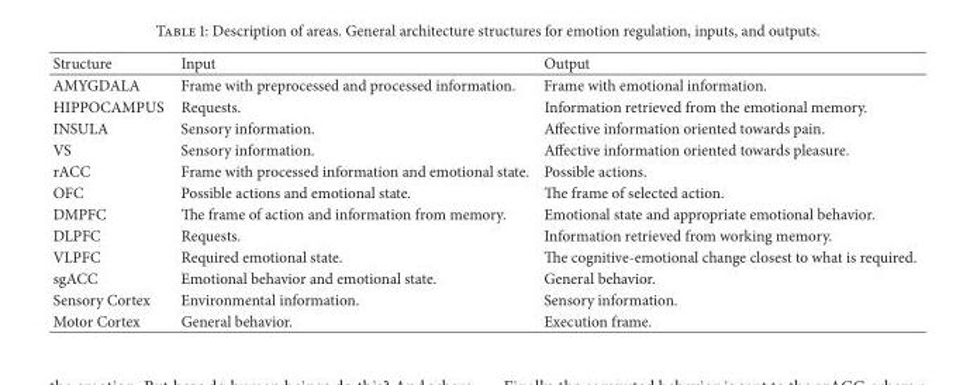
<table><thead><tr><td>Structure</td><td>Input</td><td>Output</td></tr></thead><tbody><tr><td>AMYGDALA</td><td>Frame with preprocessed and processed information.</td><td>Frame with emotional information.</td></tr><tr><td>HIPPOCAMPUS</td><td>Requests.</td><td>Information retrieved from the emotional memory.</td></tr><tr><td>INSULA</td><td>Sensory information.</td><td>Affective information oriented towards pain.</td></tr><tr><td>VS</td><td>Sensory information.</td><td>Affective information oriented towards pleasure.</td></tr><tr><td>rACC</td><td>Frame with processed information and emotional state.</td><td>Possible actions.</td></tr><tr><td>OFC</td><td>Possible actions and emotional state.</td><td>The frame of selected action.</td></tr><tr><td>DMPFC</td><td>The frame of action and information from memory.</td><td>Emotional state and appropriate emotional behavior.</td></tr><tr><td>DLPFC</td><td>Requests.</td><td>Information retrieved from working memory.</td></tr><tr><td>VLPFC</td><td>Required emotional state.</td><td>The cognitive-emotional change closest to what is required.</td></tr><tr><td>sgACC</td><td>Emotional behavior and emotional state.</td><td>General behavior.</td></tr><tr><td>Sensory Cortex</td><td>Environmental information.</td><td>Sensory information.</td></tr><tr><td>Motor Cortex</td><td>General behavior.</td><td>Execution frame.</td></tr></tbody></table>